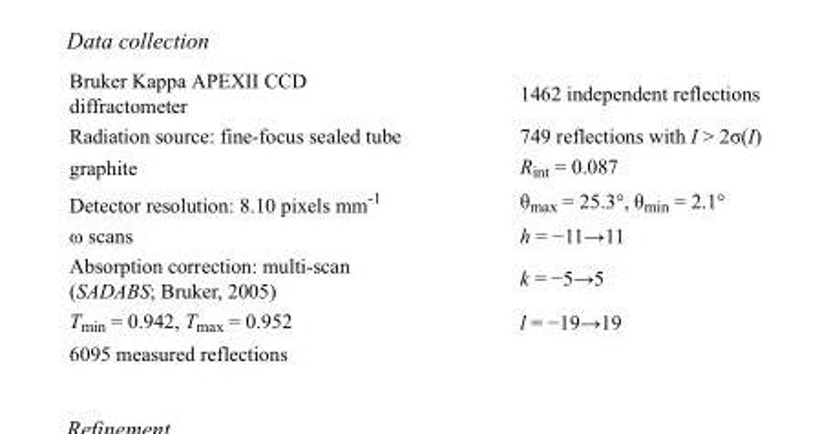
<table><tbody><tr><td>Bruker Kappa APEXII CCD diffractometer</td><td>1462 independent reflections</td></tr><tr><td>Radiation source: fine-focus sealed tube</td><td>749 reflections with I &gt; 2σ(I)</td></tr><tr><td>graphite</td><td>R<sub>int</sub> = 0.087</td></tr><tr><td>Detector resolution: 8.10 pixels mm<sup>-1</sup></td><td>θ<sub>max</sub> = 25.3°, θ<sub>min</sub> = 2.1°</td></tr><tr><td>ω scans</td><td>h = −11→11</td></tr><tr><td>Absorption correction: multi-scan (SADABS; Bruker, 2005)</td><td>k = −5→5</td></tr><tr><td>T<sub>min</sub> = 0.942, T<sub>max</sub> = 0.952</td><td>l = −19→19</td></tr><tr><td>6095 measured reflections</td><td></td></tr></tbody></table>